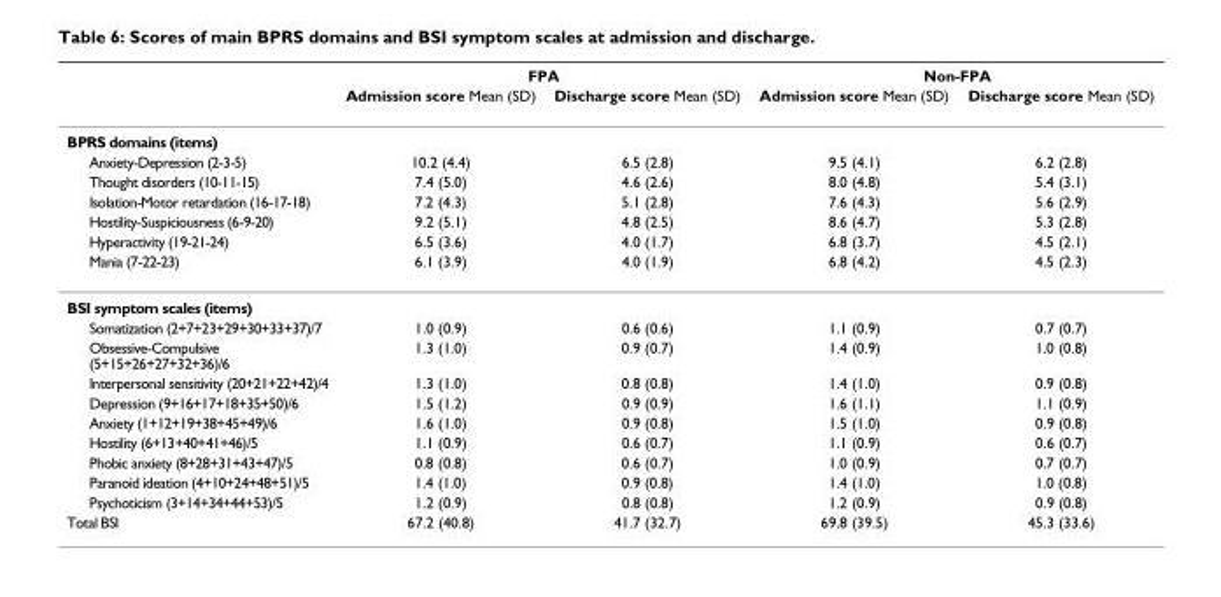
<table><thead><tr><td rowspan="2"></td><td colspan="2">FPA</td><td colspan="2">Non-FPA</td></tr><tr><td>Admission score Mean (SD)</td><td>Discharge score Mean (SD)</td><td>Admission score Mean (SD)</td><td>Discharge score Mean (SD)</td></tr></thead><tbody><tr><td colspan="5">BPRS domains (items)</td></tr><tr><td>Anxiety-Depression (2-3-5)</td><td>10.2 (4.4)</td><td>6.5 (2.8)</td><td>9.5 (4.1)</td><td>6.2 (2.8)</td></tr><tr><td>Thought disorders (10-11-15)</td><td>7.4 (5.0)</td><td>4.6 (2.6)</td><td>8.0 (4.8)</td><td>5.4 (3.1)</td></tr><tr><td>Isolation-Motor retardation (16-17-18)</td><td>7.2 (4.3)</td><td>5.1 (2.8)</td><td>7.6 (4.3)</td><td>5.6 (2.9)</td></tr><tr><td>Hostility-Suspiciousness (6-9-20)</td><td>9.2 (5.1)</td><td>4.8 (2.5)</td><td>8.6 (4.7)</td><td>5.3 (2.8)</td></tr><tr><td>Hyperactivity (19-21-24)</td><td>6.5 (3.6)</td><td>4.0 (1.7)</td><td>6.8 (3.7)</td><td>4.5 (2.1)</td></tr><tr><td>Mania (7-22-23)</td><td>6.1 (3.9)</td><td>4.0 (1.9)</td><td>6.8 (4.2)</td><td>4.5 (2.3)</td></tr><tr><td colspan="5">BSI symptom scales (items)</td></tr><tr><td>Somatization (2+7+23+29+30+33+37)/7</td><td>1.0 (0.9)</td><td>0.6 (0.6)</td><td>1.1 (0.9)</td><td>0.7 (0.7)</td></tr><tr><td>Obsessive-Compulsive (5+15+26+27+32+36)/6</td><td>1.3 (1.0)</td><td>0.9 (0.7)</td><td>1.4 (0.9)</td><td>1.0 (0.8)</td></tr><tr><td>Interpersonal sensitivity (20+21+22+42)/4</td><td>1.3 (1.0)</td><td>0.8 (0.8)</td><td>1.4 (1.0)</td><td>0.9 (0.8)</td></tr><tr><td>Depression (9+16+17+18+35+50)/6</td><td>1.5 (1.2)</td><td>0.9 (0.9)</td><td>1.6 (1.1)</td><td>1.1 (0.9)</td></tr><tr><td>Anxiety (1+12+19+38+45+49)/6</td><td>1.6 (1.0)</td><td>0.9 (0.8)</td><td>1.5 (1.0)</td><td>0.9 (0.8)</td></tr><tr><td>Hostility (6+13+40+41+46)/5</td><td>1.1 (0.9)</td><td>0.6 (0.7)</td><td>1.1 (0.9)</td><td>0.6 (0.7)</td></tr><tr><td>Phobic anxiety (8+28+31+43+47)/5</td><td>0.8 (0.8)</td><td>0.6 (0.7)</td><td>1.0 (0.9)</td><td>0.7 (0.7)</td></tr><tr><td>Paranoid ideation (4+10+24+48+51)/5</td><td>1.4 (1.0)</td><td>0.9 (0.8)</td><td>1.4 (1.0)</td><td>1.0 (0.8)</td></tr><tr><td>Psychoticism (3+14+34+44+53)/5</td><td>1.2 (0.9)</td><td>0.8 (0.8)</td><td>1.2 (0.9)</td><td>0.9 (0.8)</td></tr><tr><td>Total BSI</td><td>67.2 (40.8)</td><td>41.7 (32.7)</td><td>69.8 (39.5)</td><td>45.3 (33.6)</td></tr></tbody></table>